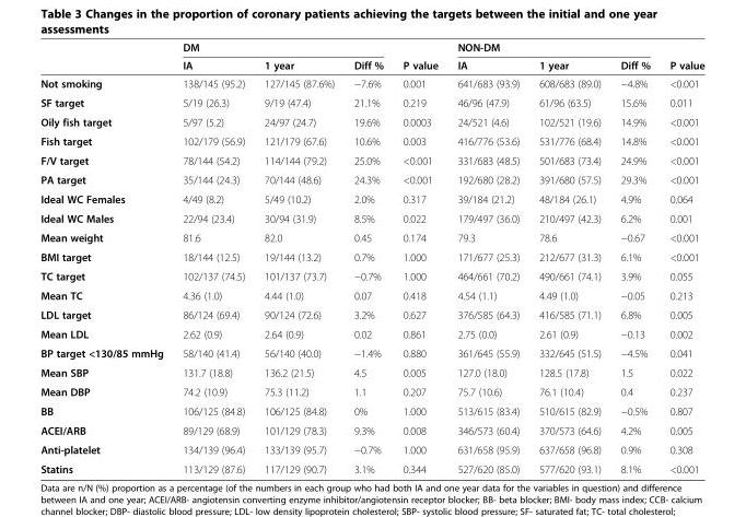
<table><thead><tr><td rowspan="2"></td><td colspan="3">DM</td><td rowspan="2">P value</td><td colspan="3">NON-DM</td><td rowspan="2">P value</td></tr><tr><td>IA</td><td>1 year</td><td>Diff %</td><td>IA</td><td>1 year</td><td>Diff %</td></tr></thead><tbody><tr><td>Not smoking</td><td>138/145 (95.2)</td><td>127/145 (87.6%)</td><td>−7.6%</td><td>0.001</td><td>641/683 (93.9)</td><td>608/683 (89.0)</td><td>−4.8%</td><td>&lt;0.001</td></tr><tr><td>SF target</td><td>5/19 (26.3)</td><td>9/19 (47.4)</td><td>21.1%</td><td>0.219</td><td>46/96 (47.9)</td><td>61/96 (63.5)</td><td>15.6%</td><td>0.011</td></tr><tr><td>Oily fish target</td><td>5/97 (5.2)</td><td>24/97 (24.7)</td><td>19.6%</td><td>0.0003</td><td>24/521 (4.6)</td><td>102/521 (19.6)</td><td>14.9%</td><td>&lt;0.001</td></tr><tr><td>Fish target</td><td>102/179 (56.9)</td><td>121/179 (67.6)</td><td>10.6%</td><td>0.003</td><td>416/776 (53.6)</td><td>531/776 (68.4)</td><td>14.8%</td><td>&lt;0.001</td></tr><tr><td>F/V target</td><td>78/144 (54.2)</td><td>114/144 (79.2)</td><td>25.0%</td><td>&lt;0.001</td><td>331/683 (48.5)</td><td>501/683 (73.4)</td><td>24.9%</td><td>&lt;0.001</td></tr><tr><td>PA target</td><td>35/144 (24.3)</td><td>70/144 (48.6)</td><td>24.3%</td><td>&lt;0.001</td><td>192/680 (28.2)</td><td>391/680 (57.5)</td><td>29.3%</td><td>&lt;0.001</td></tr><tr><td>Ideal WC Females</td><td>4/49 (8.2)</td><td>5/49 (10.2)</td><td>2.0%</td><td>0.317</td><td>39/184 (21.2)</td><td>48/184 (26.1)</td><td>4.9%</td><td>0.064</td></tr><tr><td>Ideal WC Males</td><td>22/94 (23.4)</td><td>30/94 (31.9)</td><td>8.5%</td><td>0.022</td><td>179/497 (36.0)</td><td>210/497 (42.3)</td><td>6.2%</td><td>0.001</td></tr><tr><td>Mean weight</td><td>81.6</td><td>82.0</td><td>0.45</td><td>0.174</td><td>79.3</td><td>78.6</td><td>−0.67</td><td>&lt;0.001</td></tr><tr><td>BMI target</td><td>18/144 (12.5)</td><td>19/144 (13.2)</td><td>0.7%</td><td>1.000</td><td>171/677 (25.3)</td><td>212/677 (31.3)</td><td>6.1%</td><td>&lt;0.001</td></tr><tr><td>TC target</td><td>102/137 (74.5)</td><td>101/137 (73.7)</td><td>−0.7%</td><td>1.000</td><td>464/661 (70.2)</td><td>490/661 (74.1)</td><td>3.9%</td><td>0.055</td></tr><tr><td>Mean TC</td><td>4.36 (1.0)</td><td>4.44 (1.0)</td><td>0.07</td><td>0.418</td><td>4.54 (1.1)</td><td>4.49 (1.0)</td><td>−0.05</td><td>0.213</td></tr><tr><td>LDL target</td><td>86/124 (69.4)</td><td>90/124 (72.6)</td><td>3.2%</td><td>0.627</td><td>376/585 (64.3)</td><td>416/585 (71.1)</td><td>6.8%</td><td>0.005</td></tr><tr><td>Mean LDL</td><td>2.62 (0.9)</td><td>2.64 (0.9)</td><td>0.02</td><td>0.861</td><td>2.75 (0.0)</td><td>2.61 (0.9)</td><td>−0.13</td><td>0.002</td></tr><tr><td>BP target &lt;130/85 mmHg</td><td>58/140 (41.4)</td><td>56/140 (40.0)</td><td>−1.4%</td><td>0.880</td><td>361/645 (55.9)</td><td>332/645 (51.5)</td><td>−4.5%</td><td>0.041</td></tr><tr><td>Mean SBP</td><td>131.7 (18.8)</td><td>136.2 (21.5)</td><td>4.5</td><td>0.005</td><td>127.0 (18.0)</td><td>128.5 (17.8)</td><td>1.5</td><td>0.022</td></tr><tr><td>Mean DBP</td><td>74.2 (10.9)</td><td>75.3 (11.2)</td><td>1.1</td><td>0.207</td><td>75.7 (10.6)</td><td>76.1 (10.4)</td><td>0.4</td><td>0.237</td></tr><tr><td>BB</td><td>106/125 (84.8)</td><td>106/125 (84.8)</td><td>0%</td><td>1.000</td><td>513/615 (83.4)</td><td>510/615 (82.9)</td><td>−0.5%</td><td>0.807</td></tr><tr><td>ACEI/ARB</td><td>89/129 (68.9)</td><td>101/129 (78.3)</td><td>9.3%</td><td>0.008</td><td>346/573 (60.4)</td><td>370/573 (64.6)</td><td>4.2%</td><td>0.005</td></tr><tr><td>Anti-platelet</td><td>134/139 (96.4)</td><td>133/139 (95.7)</td><td>−0.7%</td><td>1.000</td><td>631/658 (95.9)</td><td>637/658 (96.8)</td><td>0.9%</td><td>0.308</td></tr><tr><td>Statins</td><td>113/129 (87.6)</td><td>117/129 (90.7)</td><td>3.1%</td><td>0.344</td><td>527/620 (85.0)</td><td>577/620 (93.1)</td><td>8.1%</td><td>&lt;0.001</td></tr></tbody></table>